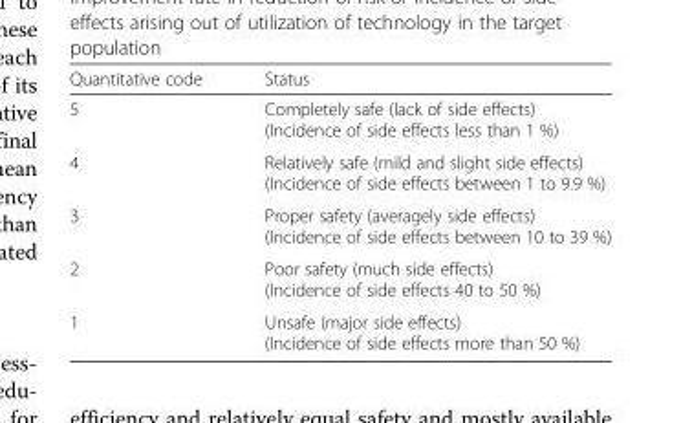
<table><thead><tr><td>Quantitative code</td><td>Status</td></tr></thead><tbody><tr><td>5</td><td>Completely safe (lack of side effects) (Incidence of side effects less than 1 %)</td></tr><tr><td>4</td><td>Relatively safe (mild and slight side effects) (Incidence of side effects between 1 to 9.9 %)</td></tr><tr><td>3</td><td>Proper safety (averagely side effects) (Incidence of side effects between 10 to 39 %)</td></tr><tr><td>2</td><td>Poor safety (much side effects) (Incidence of side effects 40 to 50 %)</td></tr><tr><td>1</td><td>Unsafe (major side effects) (Incidence of side effects more than 50 %)</td></tr></tbody></table>